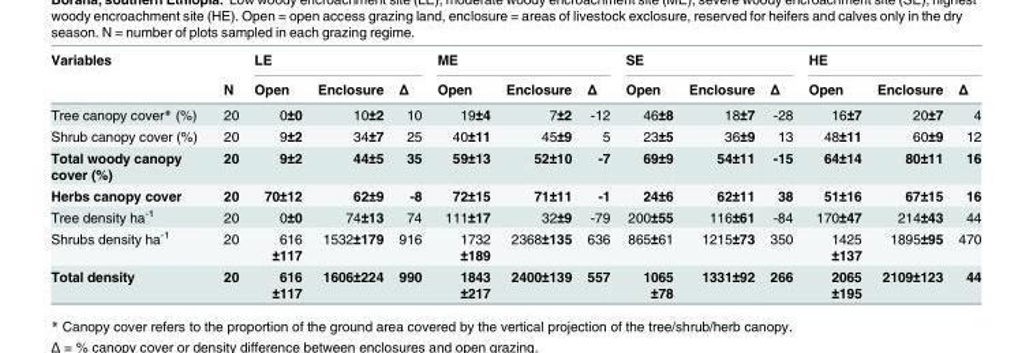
<table><thead><tr><td rowspan="2">Variables</td><td rowspan="2">N</td><td colspan="3">LE</td><td colspan="3">ME</td><td colspan="3">SE</td><td colspan="3">HE</td></tr><tr><td>Open</td><td>Enclosure</td><td>Δ</td><td>Open</td><td>Enclosure</td><td>Δ</td><td>Open</td><td>Enclosure</td><td>Δ</td><td>Open</td><td>Enclosure</td><td>Δ</td></tr></thead><tbody><tr><td>Tree canopy cover* (%)</td><td>20</td><td>0±0</td><td>10±2</td><td>10</td><td>19±4</td><td>7±2</td><td>-12</td><td>46±8</td><td>18±7</td><td>-28</td><td>16±7</td><td>20±7</td><td>4</td></tr><tr><td>Shrub canopy cover (%)</td><td>20</td><td>9±2</td><td>34±7</td><td>25</td><td>40±11</td><td>45±9</td><td>5</td><td>23±5</td><td>36±9</td><td>13</td><td>48±11</td><td>60±9</td><td>12</td></tr><tr><td>Total woody canopy cover (%)</td><td>20</td><td>9±2</td><td>44±5</td><td>35</td><td>59±13</td><td>52±10</td><td>-7</td><td>69±9</td><td>54±11</td><td>-15</td><td>64±14</td><td>80±11</td><td>16</td></tr><tr><td>Herbs canopy cover</td><td>20</td><td>70±12</td><td>62±9</td><td>-8</td><td>72±15</td><td>71±11</td><td>-1</td><td>24±6</td><td>62±11</td><td>38</td><td>51±16</td><td>67±15</td><td>16</td></tr><tr><td>Tree density ha<sup>-1</sup></td><td>20</td><td>0±0</td><td>74±13</td><td>74</td><td>111±17</td><td>32±9</td><td>-79</td><td>200±55</td><td>116±61</td><td>-84</td><td>170±47</td><td>214±43</td><td>44</td></tr><tr><td>Shrubs density ha<sup>-1</sup></td><td>20</td><td>616 ±117</td><td>1532±179</td><td>916</td><td>1732 ±189</td><td>2368±135</td><td>636</td><td>865±61</td><td>1215±73</td><td>350</td><td>1425 ±137</td><td>1895±95</td><td>470</td></tr><tr><td>Total density</td><td>20</td><td>616 ±117</td><td>1606±224</td><td>990</td><td>1843 ±217</td><td>2400±139</td><td>557</td><td>1065 ±78</td><td>1331±92</td><td>266</td><td>2065 ±195</td><td>2109±123</td><td>44</td></tr></tbody></table>